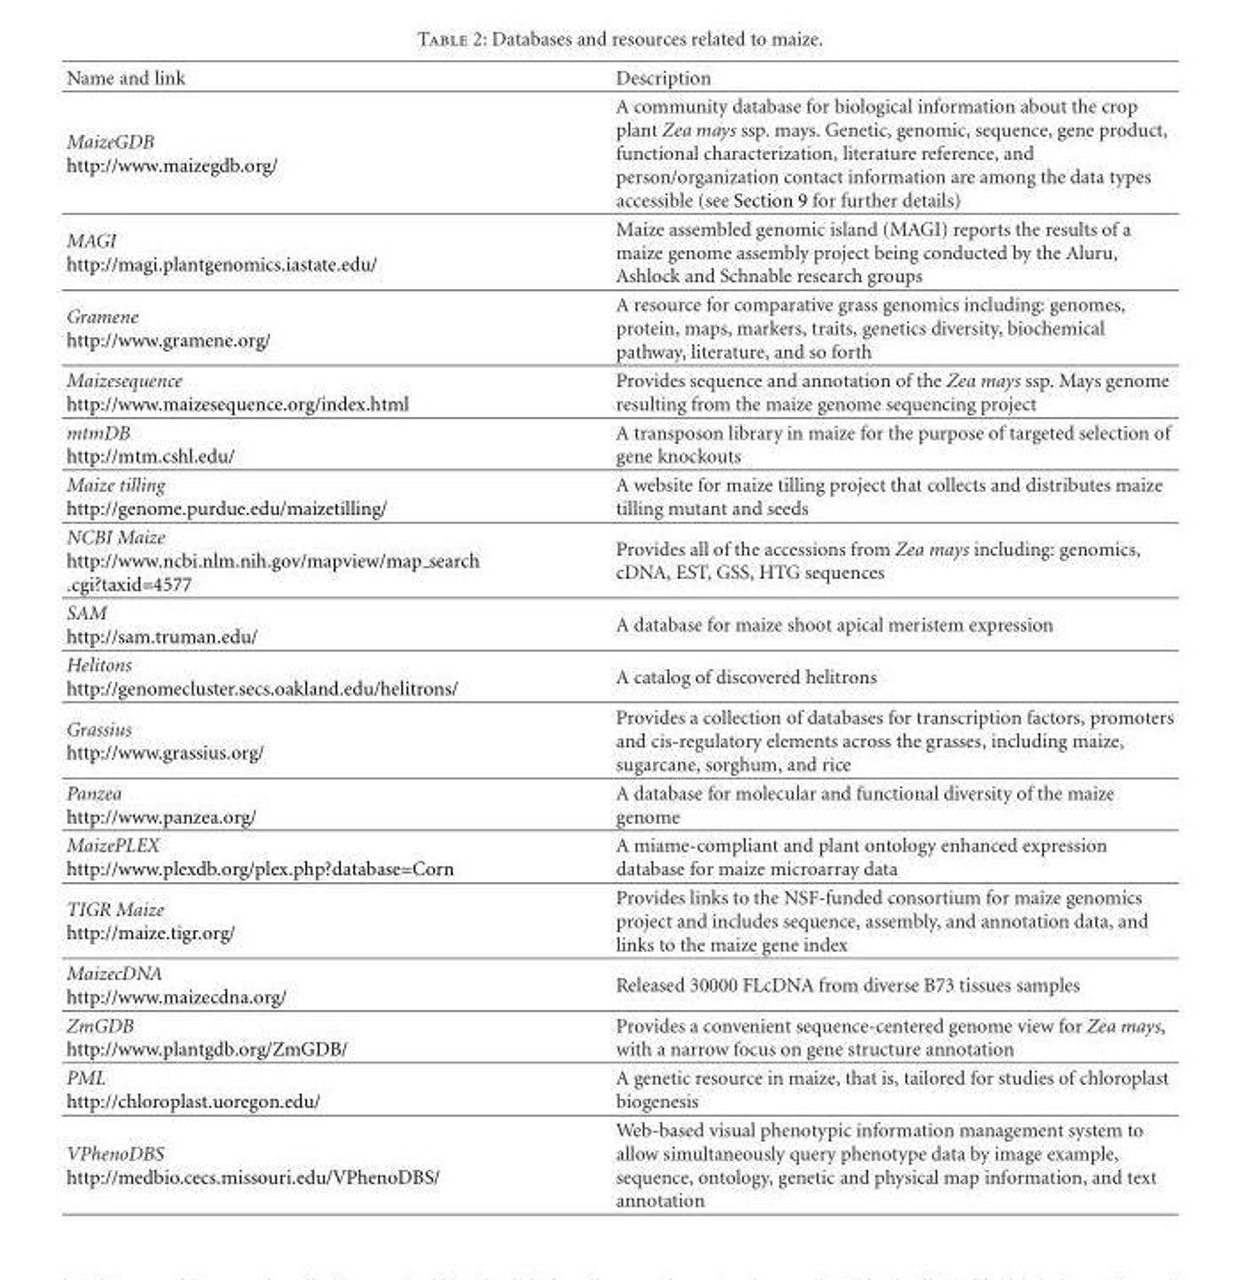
<table><thead><tr><td>Name and link</td><td>Description</td></tr></thead><tbody><tr><td>MaizeGDB http://www.maizegdb.org/</td><td>A community database for biological information about the crop plant Zea mays ssp. mays. Genetic, genomic, sequence, gene product, functional characterization, literature reference, and person/organization contact information are among the data types accessible (see Section 9 for further details)</td></tr><tr><td>MAGI http://magi.plantgenomics.iastate.edu/</td><td>Maize assembled genomic island (MAGI) reports the results of a maize genome assembly project being conducted by the Aluru, Ashlock and Schnable research groups</td></tr><tr><td>Gramene http://www.gramene.org/</td><td>A resource for comparative grass genomics including: genomes, protein, maps, markers, traits, genetics diversity, biochemical pathway, literature, and so forth</td></tr><tr><td>Maizesequence http://www.maizesequence.org/index.html</td><td>Provides sequence and annotation of the Zea mays ssp. Mays genome resulting from the maize genome sequencing project</td></tr><tr><td>mtmDB http://mtm.cshl.edu/</td><td>A transposon library in maize for the purpose of targeted selection of gene knockouts</td></tr><tr><td>Maize tilling http://genome.purdue.edu/maizetilling/</td><td>A website for maize tilling project that collects and distributes maize tilling mutant and seeds</td></tr><tr><td>NCBI Maize http://www.ncbi.nlm.nih.gov/mapview/map search .cgi?taxid=4577</td><td>Provides all of the accessions from Zea mays including: genomics, cDNA, EST, GSS, HTG sequences</td></tr><tr><td>SAM http://sam.truman.edu/</td><td>A database for maize shoot apical meristem expression</td></tr><tr><td>Helitons http://genomecluster.secs.oakland.edu/helitrons/</td><td>A catalog of discovered helitrons</td></tr><tr><td>Grassius http://www.grassius.org/</td><td>Provides a collection of databases for transcription factors, promoters and cis-regulatory elements across the grasses, including maize, sugarcane, sorghum, and rice</td></tr><tr><td>Panzea http://www.panzea.org/</td><td>A database for molecular and functional diversity of the maize genome</td></tr><tr><td>MaizePLEX http://www.plexdb.org/plex.php?database=Corn</td><td>A miame-compliant and plant ontology enhanced expression database for maize microarray data</td></tr><tr><td>TIGR Maize http://maize.tigr.org/</td><td>Provides links to the NSF-funded consortium for maize genomics project and includes sequence, assembly, and annotation data, and links to the maize gene index</td></tr><tr><td>MaizecDNA http://www.maizecdna.org/</td><td>Released 30000 FLcDNA from diverse B73 tissues samples</td></tr><tr><td>ZmGDB http://www.plantgdb.org/ZmGDB/</td><td>Provides a convenient sequence-centered genome view for Zea mays, with a narrow focus on gene structure annotation</td></tr><tr><td>PML http://chloroplast.uoregon.edu/</td><td>A genetic resource in maize, that is, tailored for studies of chloroplast biogenesis</td></tr><tr><td>VPhenoDBS http://medbio.cecs.missouri.edu/VPhenoDBS/</td><td>Web-based visual phenotypic information management system to allow simultaneously query phenotype data by image example, sequence, ontology, genetic and physical map information, and text annotation</td></tr></tbody></table>